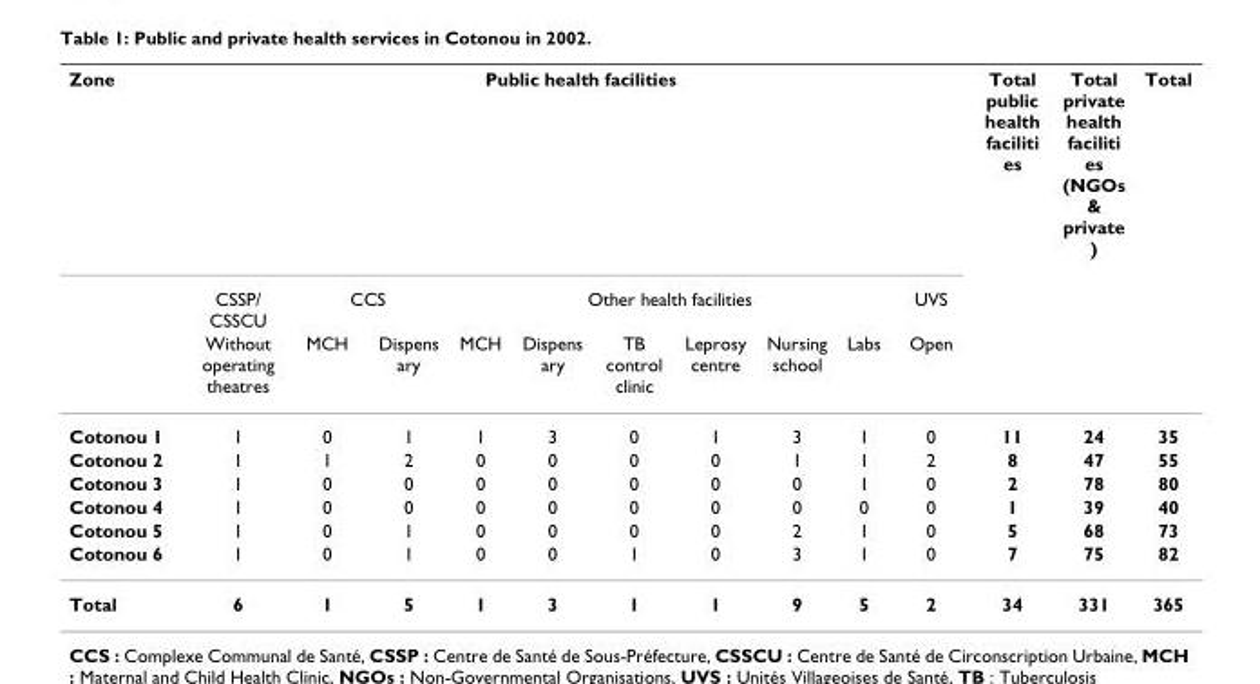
<table><thead><tr><td rowspan="3">Zone</td><td colspan="10">Public health facilities</td><td rowspan="3">Total public health faciliti es</td><td rowspan="3">Total private health faciliti es (NGOs &amp; private )</td><td rowspan="3">Total</td></tr><tr><td rowspan="2">CSSP/ CSSCU Without operating theatres</td><td colspan="2">CCS</td><td colspan="6">Other health facilities</td><td rowspan="2">UVS Open</td></tr><tr><td>MCH</td><td>Dispens ary</td><td>MCH</td><td>Dispens ary</td><td>TB control clinic</td><td>Leprosy centre</td><td>Nursing school</td><td>Labs</td></tr></thead><tbody><tr><td>Cotonou 1</td><td>1</td><td>0</td><td>1</td><td>1</td><td>3</td><td>0</td><td>1</td><td>3</td><td>1</td><td>0</td><td>11</td><td>24</td><td>35</td></tr><tr><td>Cotonou 2</td><td>1</td><td>1</td><td>2</td><td>0</td><td>0</td><td>0</td><td>0</td><td>1</td><td>1</td><td>2</td><td>8</td><td>47</td><td>55</td></tr><tr><td>Cotonou 3</td><td>1</td><td>0</td><td>0</td><td>0</td><td>0</td><td>0</td><td>0</td><td>0</td><td>1</td><td>0</td><td>2</td><td>78</td><td>80</td></tr><tr><td>Cotonou 4</td><td>1</td><td>0</td><td>0</td><td>0</td><td>0</td><td>0</td><td>0</td><td>0</td><td>0</td><td>0</td><td>1</td><td>39</td><td>40</td></tr><tr><td>Cotonou 5</td><td>1</td><td>0</td><td>1</td><td>0</td><td>0</td><td>0</td><td>0</td><td>2</td><td>1</td><td>0</td><td>5</td><td>68</td><td>73</td></tr><tr><td>Cotonou 6</td><td>1</td><td>0</td><td>1</td><td>0</td><td>0</td><td>1</td><td>0</td><td>3</td><td>1</td><td>0</td><td>7</td><td>75</td><td>82</td></tr><tr><td>Total</td><td>6</td><td>1</td><td>5</td><td>1</td><td>3</td><td>1</td><td>1</td><td>9</td><td>5</td><td>2</td><td>34</td><td>331</td><td>365</td></tr></tbody></table>